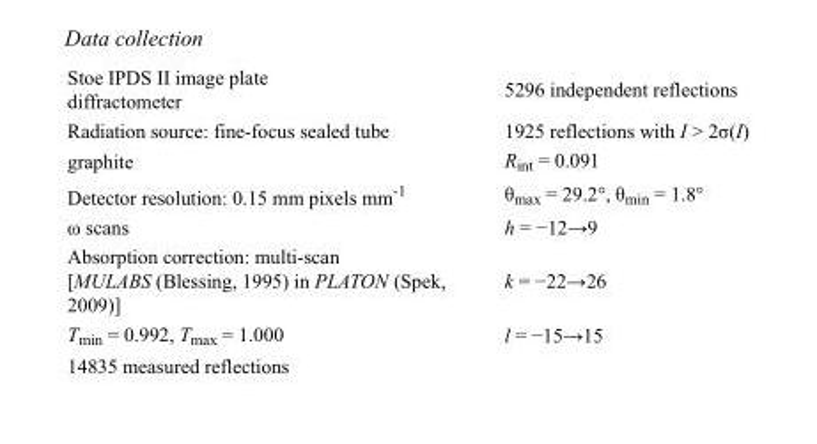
<table><tbody><tr><td>Stoe IPDS II image plate diffractometer</td><td>5296 independent reflections</td></tr><tr><td>Radiation source: fine-focus sealed tube</td><td>1925 reflections with I &gt; 2σ(I)</td></tr><tr><td>graphite</td><td>R<sub>int</sub> = 0.091</td></tr><tr><td>Detector resolution: 0.15 mm pixels mm<sup>-1</sup></td><td>θ<sub>max</sub> = 29.2°, θ<sub>min</sub> = 1.8°</td></tr><tr><td>ω scans</td><td>h = −12→9</td></tr><tr><td>Absorption correction: multi-scan [MULABS (Blessing, 1995) in PLATON (Spek, 2009)]</td><td>k = −22→26</td></tr><tr><td>T<sub>min</sub> = 0.992, T<sub>max</sub> = 1.000</td><td>l = −15→15</td></tr><tr><td>14835 measured reflections</td><td></td></tr></tbody></table>